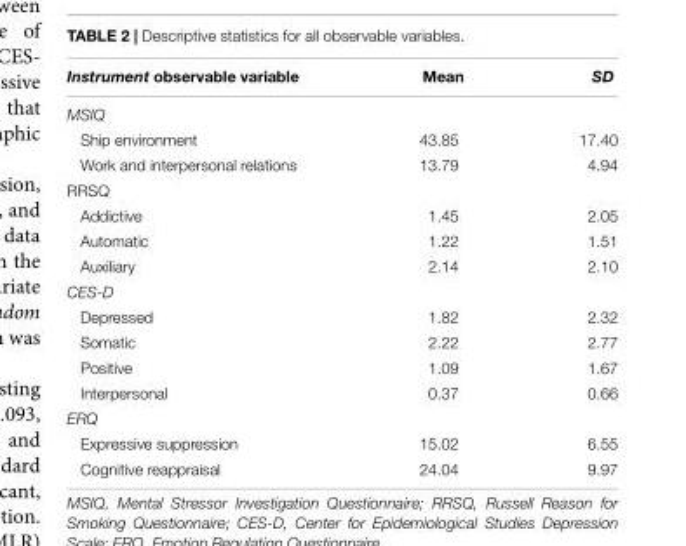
<table><thead><tr><td>Instrument observable variable</td><td>Mean</td><td>SD</td></tr></thead><tbody><tr><td colspan="3">MSIQ</td></tr><tr><td>Ship environment</td><td>43.85</td><td>17.40</td></tr><tr><td>Work and interpersonal relations</td><td>13.79</td><td>4.94</td></tr><tr><td colspan="3">RRSQ</td></tr><tr><td>Addictive</td><td>1.45</td><td>2.05</td></tr><tr><td>Automatic</td><td>1.22</td><td>1.51</td></tr><tr><td>Auxiliary</td><td>2.14</td><td>2.10</td></tr><tr><td colspan="3">CES-D</td></tr><tr><td>Depressed</td><td>1.82</td><td>2.32</td></tr><tr><td>Somatic</td><td>2.22</td><td>2.77</td></tr><tr><td>Positive</td><td>1.09</td><td>1.67</td></tr><tr><td>Interpersonal</td><td>0.37</td><td>0.66</td></tr><tr><td colspan="3">ERQ</td></tr><tr><td>Expressive suppression</td><td>15.02</td><td>6.55</td></tr><tr><td>Cognitive reappraisal</td><td>24.04</td><td>9.97</td></tr></tbody></table>